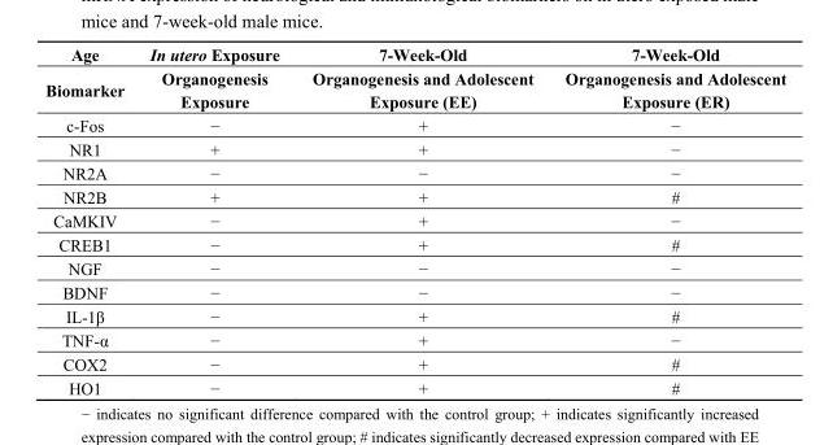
<table><thead><tr><td rowspan="2">Age Biomarker</td><td rowspan="2">In utero Exposure Organogenesis Exposure</td><td rowspan="2">7-Week-Old Organogenesis and Adolescent Exposure (EE)</td><td rowspan="2">7-Week-Old Organogenesis and Adolescent Exposure (ER)</td></tr><tr></tr></thead><tbody><tr><td>c-Fos</td><td>−</td><td>+</td><td>−</td></tr><tr><td>NR1</td><td>+</td><td>+</td><td>−</td></tr><tr><td>NR2A</td><td>−</td><td>−</td><td>−</td></tr><tr><td>NR2B</td><td>+</td><td>+</td><td>#</td></tr><tr><td>CaMKIV</td><td>−</td><td>+</td><td>−</td></tr><tr><td>CREB1</td><td>−</td><td>+</td><td>#</td></tr><tr><td>NGF</td><td>−</td><td>−</td><td>−</td></tr><tr><td>BDNF</td><td>−</td><td>−</td><td>−</td></tr><tr><td>IL-1β</td><td>−</td><td>+</td><td>#</td></tr><tr><td>TNF-α</td><td>−</td><td>+</td><td>−</td></tr><tr><td>COX2</td><td>−</td><td>+</td><td>#</td></tr><tr><td>HO1</td><td>−</td><td>+</td><td>#</td></tr></tbody></table>